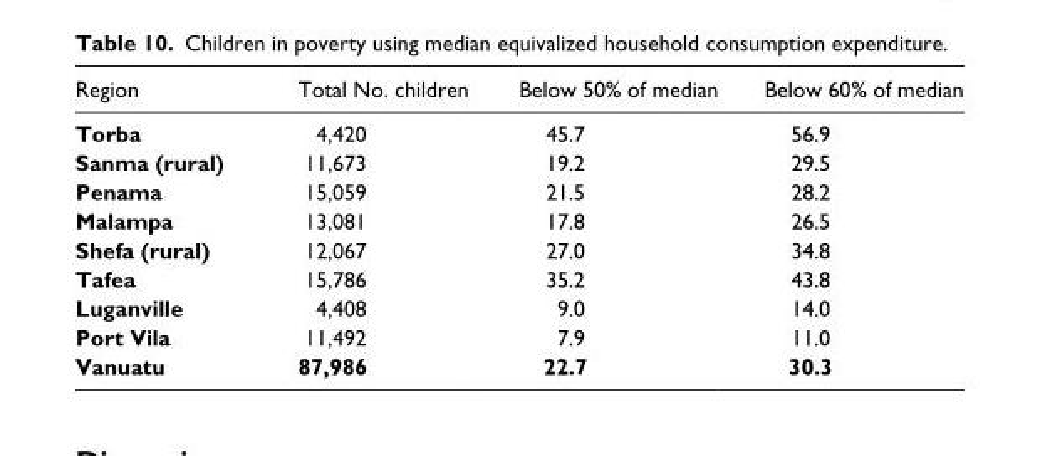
<table><thead><tr><td>Region</td><td>Total No. children</td><td>Below 50% of median</td><td>Below 60% of median</td></tr></thead><tbody><tr><td>Torba</td><td>4,420</td><td>45.7</td><td>56.9</td></tr><tr><td>Sanma (rural)</td><td>11,673</td><td>19.2</td><td>29.5</td></tr><tr><td>Penama</td><td>15,059</td><td>21.5</td><td>28.2</td></tr><tr><td>Malampa</td><td>13,081</td><td>17.8</td><td>26.5</td></tr><tr><td>Shefa (rural)</td><td>12,067</td><td>27.0</td><td>34.8</td></tr><tr><td>Tafea</td><td>15,786</td><td>35.2</td><td>43.8</td></tr><tr><td>Luganville</td><td>4,408</td><td>9.0</td><td>14.0</td></tr><tr><td>Port Vila</td><td>11,492</td><td>7.9</td><td>11.0</td></tr><tr><td>Vanuatu</td><td>87,986</td><td>22.7</td><td>30.3</td></tr></tbody></table>